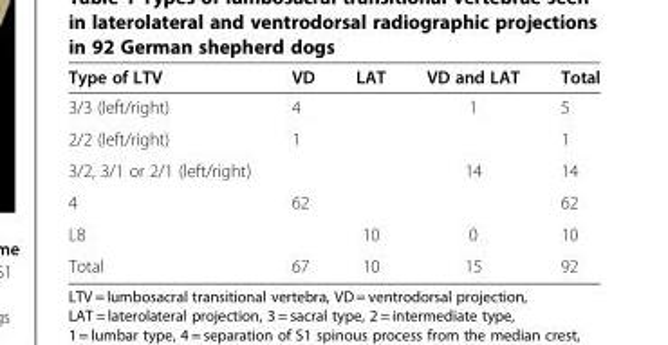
<table><thead><tr><td>Type of LTV</td><td>VD</td><td>LAT</td><td>VD and LAT</td><td>Total</td></tr></thead><tbody><tr><td>3/3 (left/right)</td><td>4</td><td></td><td>1</td><td>5</td></tr><tr><td>2/2 (left/right)</td><td>1</td><td></td><td></td><td>1</td></tr><tr><td>3/2, 3/1 or 2/1 (left/right)</td><td></td><td></td><td>14</td><td>14</td></tr><tr><td>4</td><td>62</td><td></td><td></td><td>62</td></tr><tr><td>L8</td><td></td><td>10</td><td>0</td><td>10</td></tr><tr><td>Total</td><td>67</td><td>10</td><td>15</td><td>92</td></tr></tbody></table>